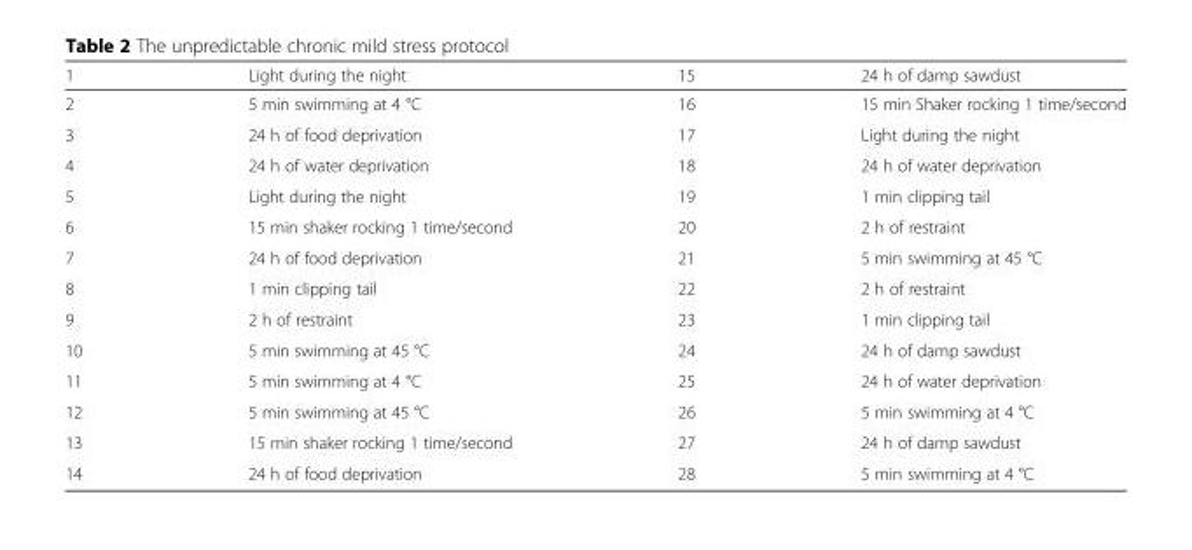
<table><thead><tr><td>1</td><td>Light during the night</td><td>15</td><td>24 h of damp sawdust</td></tr></thead><tbody><tr><td>2</td><td>5 min swimming at 4 °C</td><td>16</td><td>15 min Shaker rocking 1 time/second</td></tr><tr><td>3</td><td>24 h of food deprivation</td><td>17</td><td>Light during the night</td></tr><tr><td>4</td><td>24 h of water deprivation</td><td>18</td><td>24 h of water deprivation</td></tr><tr><td>5</td><td>Light during the night</td><td>19</td><td>1 min clipping tail</td></tr><tr><td>6</td><td>15 min shaker rocking 1 time/second</td><td>20</td><td>2 h of restraint</td></tr><tr><td>7</td><td>24 h of food deprivation</td><td>21</td><td>5 min swimming at 45 °C</td></tr><tr><td>8</td><td>1 min clipping tail</td><td>22</td><td>2 h of restraint</td></tr><tr><td>9</td><td>2 h of restraint</td><td>23</td><td>1 min clipping tail</td></tr><tr><td>10</td><td>5 min swimming at 45 °C</td><td>24</td><td>24 h of damp sawdust</td></tr><tr><td>11</td><td>5 min swimming at 4 °C</td><td>25</td><td>24 h of water deprivation</td></tr><tr><td>12</td><td>5 min swimming at 45 °C</td><td>26</td><td>5 min swimming at 4 °C</td></tr><tr><td>13</td><td>15 min shaker rocking 1 time/second</td><td>27</td><td>24 h of damp sawdust</td></tr><tr><td>14</td><td>24 h of food deprivation</td><td>28</td><td>5 min swimming at 4 °C</td></tr></tbody></table>